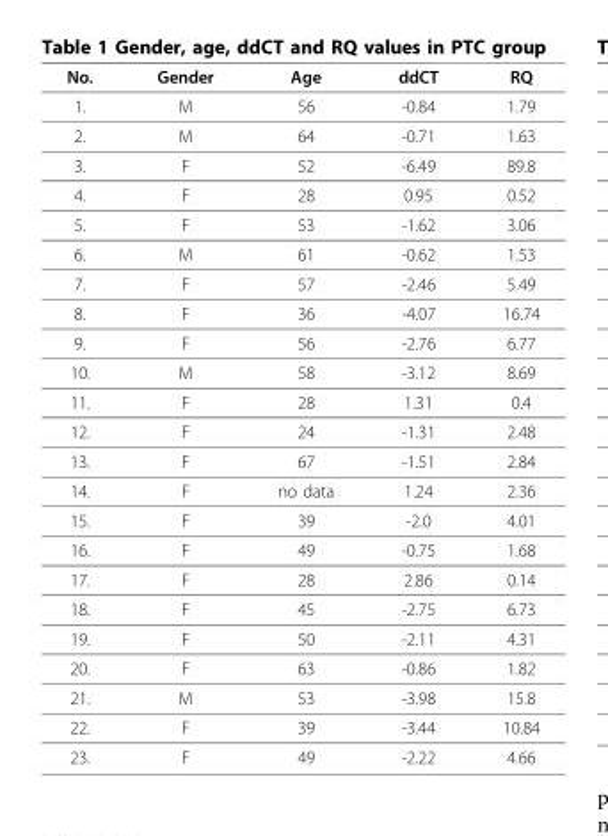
<table><thead><tr><td>No.</td><td>Gender</td><td>Age</td><td>ddCT</td><td>RQ</td></tr></thead><tbody><tr><td>1.</td><td>M</td><td>56</td><td>-0.84</td><td>1.79</td></tr><tr><td>2.</td><td>M</td><td>64</td><td>-0.71</td><td>1.63</td></tr><tr><td>3.</td><td>F</td><td>52</td><td>-6.49</td><td>89.8</td></tr><tr><td>4.</td><td>F</td><td>28</td><td>0.95</td><td>0.52</td></tr><tr><td>5.</td><td>F</td><td>53</td><td>-1.62</td><td>3.06</td></tr><tr><td>6.</td><td>M</td><td>61</td><td>-0.62</td><td>1.53</td></tr><tr><td>7.</td><td>F</td><td>57</td><td>-2.46</td><td>5.49</td></tr><tr><td>8.</td><td>F</td><td>36</td><td>-4.07</td><td>16.74</td></tr><tr><td>9.</td><td>F</td><td>56</td><td>-2.76</td><td>6.77</td></tr><tr><td>10.</td><td>M</td><td>58</td><td>-3.12</td><td>8.69</td></tr><tr><td>11.</td><td>F</td><td>28</td><td>1.31</td><td>0.4</td></tr><tr><td>12.</td><td>F</td><td>24</td><td>-1.31</td><td>2.48</td></tr><tr><td>13.</td><td>F</td><td>67</td><td>-1.51</td><td>2.84</td></tr><tr><td>14.</td><td>F</td><td>no data</td><td>1.24</td><td>2.36</td></tr><tr><td>15.</td><td>F</td><td>39</td><td>-2.0</td><td>4.01</td></tr><tr><td>16.</td><td>F</td><td>49</td><td>-0.75</td><td>1.68</td></tr><tr><td>17.</td><td>F</td><td>28</td><td>2.86</td><td>0.14</td></tr><tr><td>18.</td><td>F</td><td>45</td><td>-2.75</td><td>6.73</td></tr><tr><td>19.</td><td>F</td><td>50</td><td>-2.11</td><td>4.31</td></tr><tr><td>20.</td><td>F</td><td>63</td><td>-0.86</td><td>1.82</td></tr><tr><td>21.</td><td>M</td><td>53</td><td>-3.98</td><td>15.8</td></tr><tr><td>22.</td><td>F</td><td>39</td><td>-3.44</td><td>10.84</td></tr><tr><td>23.</td><td>F</td><td>49</td><td>-2.22</td><td>4.66</td></tr></tbody></table>